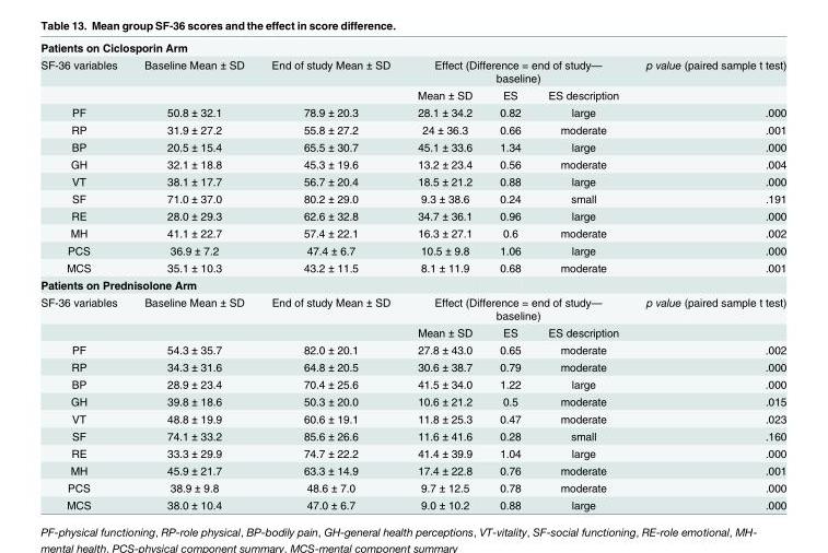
<table><tbody><tr><td colspan="7">Patients on Ciclosporin Arm</td></tr><tr><td rowspan="2">SF-36 variables</td><td>Baseline Mean ± SD</td><td>End of study Mean ± SD</td><td colspan="3">Effect (Difference = end of study— baseline)</td><td>p value (paired sample t test)</td></tr><tr><td></td><td></td><td>Mean ± SD</td><td>ES</td><td>ES description</td><td></td></tr><tr><td>PF</td><td>50.8 ± 32.1</td><td>78.9 ± 20.3</td><td>28.1 ± 34.2</td><td>0.82</td><td>large</td><td>.000</td></tr><tr><td>RP</td><td>31.9 ± 27.2</td><td>55.8 ± 27.2</td><td>24 ± 36.3</td><td>0.66</td><td>moderate</td><td>.001</td></tr><tr><td>BP</td><td>20.5 ± 15.4</td><td>65.5 ± 30.7</td><td>45.1 ± 33.6</td><td>1.34</td><td>large</td><td>.000</td></tr><tr><td>GH</td><td>32.1 ± 18.8</td><td>45.3 ± 19.6</td><td>13.2 ± 23.4</td><td>0.56</td><td>moderate</td><td>.004</td></tr><tr><td>VT</td><td>38.1 ± 17.7</td><td>56.7 ± 20.4</td><td>18.5 ± 21.2</td><td>0.88</td><td>large</td><td>.000</td></tr><tr><td>SF</td><td>71.0 ± 37.0</td><td>80.2 ± 29.0</td><td>9.3 ± 38.6</td><td>0.24</td><td>small</td><td>.191</td></tr><tr><td>RE</td><td>28.0 ± 29.3</td><td>62.6 ± 32.8</td><td>34.7 ± 36.1</td><td>0.96</td><td>large</td><td>.000</td></tr><tr><td>MH</td><td>41.1 ± 22.7</td><td>57.4 ± 22.1</td><td>16.3 ± 27.1</td><td>0.6</td><td>moderate</td><td>.002</td></tr><tr><td>PCS</td><td>36.9 ± 7.2</td><td>47.4 ± 6.7</td><td>10.5 ± 9.8</td><td>1.06</td><td>large</td><td>.000</td></tr><tr><td>MCS</td><td>35.1 ± 10.3</td><td>43.2 ± 11.5</td><td>8.1 ± 11.9</td><td>0.68</td><td>moderate</td><td>.001</td></tr><tr><td colspan="7">Patients on Prednisolone Arm</td></tr><tr><td rowspan="2">SF-36 variables</td><td>Baseline Mean ± SD</td><td>End of study Mean ± SD</td><td colspan="3">Effect (Difference = end of study— baseline)</td><td>p value (paired sample t test)</td></tr><tr><td></td><td></td><td>Mean ± SD</td><td>ES</td><td>ES description</td><td></td></tr><tr><td>PF</td><td>54.3 ± 35.7</td><td>82.0 ± 20.1</td><td>27.8 ± 43.0</td><td>0.65</td><td>moderate</td><td>.002</td></tr><tr><td>RP</td><td>34.3 ± 31.6</td><td>64.8 ± 20.5</td><td>30.6 ± 38.7</td><td>0.79</td><td>moderate</td><td>.000</td></tr><tr><td>BP</td><td>28.9 ± 23.4</td><td>70.4 ± 25.6</td><td>41.5 ± 34.0</td><td>1.22</td><td>large</td><td>.000</td></tr><tr><td>GH</td><td>39.8 ± 18.6</td><td>50.3 ± 20.0</td><td>10.6 ± 21.2</td><td>0.5</td><td>moderate</td><td>.015</td></tr><tr><td>VT</td><td>48.8 ± 19.9</td><td>60.6 ± 19.1</td><td>11.8 ± 25.3</td><td>0.47</td><td>moderate</td><td>.023</td></tr><tr><td>SF</td><td>74.1 ± 33.2</td><td>85.6 ± 26.6</td><td>11.6 ± 41.6</td><td>0.28</td><td>small</td><td>.160</td></tr><tr><td>RE</td><td>33.3 ± 29.9</td><td>74.7 ± 22.2</td><td>41.4 ± 39.9</td><td>1.04</td><td>large</td><td>.000</td></tr><tr><td>MH</td><td>45.9 ± 21.7</td><td>63.3 ± 14.9</td><td>17.4 ± 22.8</td><td>0.76</td><td>moderate</td><td>.001</td></tr><tr><td>PCS</td><td>38.9 ± 9.8</td><td>48.6 ± 7.0</td><td>9.7 ± 12.5</td><td>0.78</td><td>moderate</td><td>.000</td></tr><tr><td>MCS</td><td>38.0 ± 10.4</td><td>47.0 ± 6.7</td><td>9.0 ± 10.2</td><td>0.88</td><td>large</td><td>.000</td></tr></tbody></table>